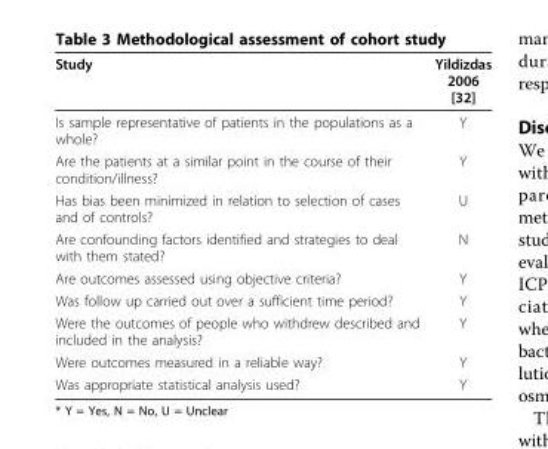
<table><thead><tr><td>Study</td><td>Yildizdas 2006 [32]</td></tr></thead><tbody><tr><td>Is sample representative of patients in the populations as a whole?</td><td>Y</td></tr><tr><td>Are the patients at a similar point in the course of their condition/illness?</td><td>Y</td></tr><tr><td>Has bias been minimized in relation to selection of cases and of controls?</td><td>U</td></tr><tr><td>Are confounding factors identified and strategies to deal with them stated?</td><td>N</td></tr><tr><td>Are outcomes assessed using objective criteria?</td><td>Y</td></tr><tr><td>Was follow up carried out over a sufficient time period?</td><td>Y</td></tr><tr><td>Were the outcomes of people who withdrew described and included in the analysis?</td><td>Y</td></tr><tr><td>Were outcomes measured in a reliable way?</td><td>Y</td></tr><tr><td>Was appropriate statistical analysis used?</td><td>Y</td></tr></tbody></table>